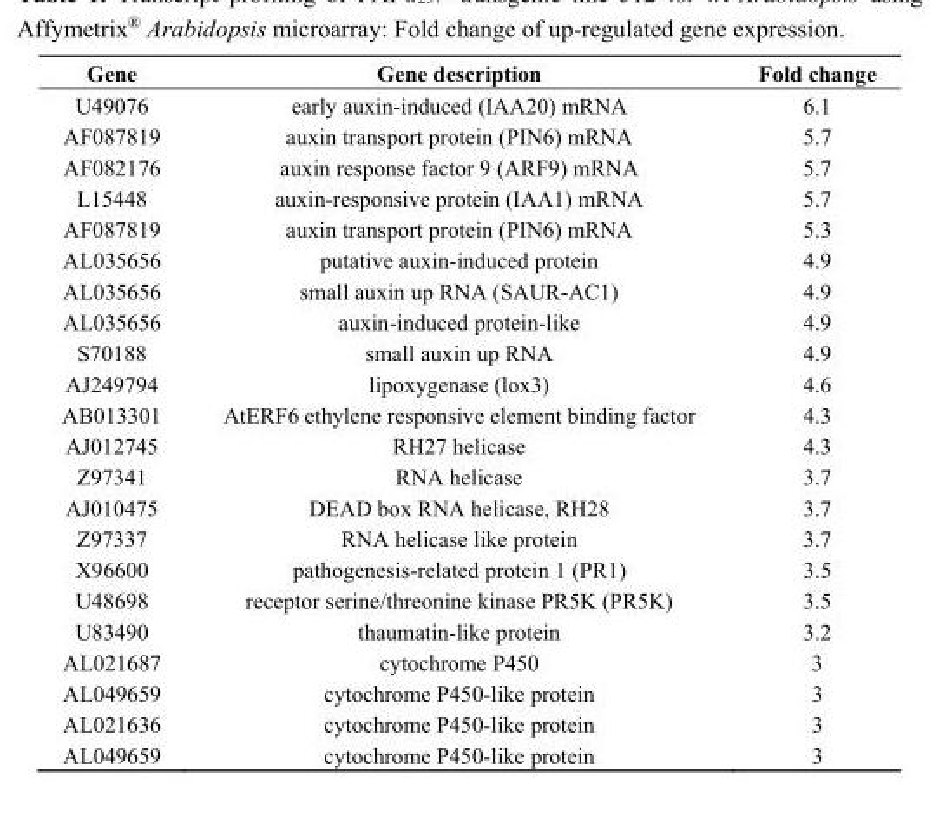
<table><thead><tr><td>Gene</td><td>Gene description</td><td>Fold change</td></tr></thead><tbody><tr><td>U49076</td><td>early auxin-induced (IAA20) mRNA</td><td>6.1</td></tr><tr><td>AF087819</td><td>auxin transport protein (PIN6) mRNA</td><td>5.7</td></tr><tr><td>AF082176</td><td>auxin response factor 9 (ARF9) mRNA</td><td>5.7</td></tr><tr><td>L15448</td><td>auxin-responsive protein (IAA1) mRNA</td><td>5.7</td></tr><tr><td>AF087819</td><td>auxin transport protein (PIN6) mRNA</td><td>5.3</td></tr><tr><td>AL035656</td><td>putative auxin-induced protein</td><td>4.9</td></tr><tr><td>AL035656</td><td>small auxin up RNA (SAUR-AC1)</td><td>4.9</td></tr><tr><td>AL035656</td><td>auxin-induced protein-like</td><td>4.9</td></tr><tr><td>S70188</td><td>small auxin up RNA</td><td>4.9</td></tr><tr><td>AJ249794</td><td>lipoxygenase (lox3)</td><td>4.6</td></tr><tr><td>AB013301</td><td>AtERF6 ethylene responsive element binding factor</td><td>4.3</td></tr><tr><td>AJ012745</td><td>RH27 helicase</td><td>4.3</td></tr><tr><td>Z97341</td><td>RNA helicase</td><td>3.7</td></tr><tr><td>AJ010475</td><td>DEAD box RNA helicase, RH28</td><td>3.7</td></tr><tr><td>Z97337</td><td>RNA helicase like protein</td><td>3.7</td></tr><tr><td>X96600</td><td>pathogenesis-related protein 1 (PR1)</td><td>3.5</td></tr><tr><td>U48698</td><td>receptor serine/threonine kinase PR5K (PR5K)</td><td>3.5</td></tr><tr><td>U83490</td><td>thaumatin-like protein</td><td>3.2</td></tr><tr><td>AL021687</td><td>cytochrome P450</td><td>3</td></tr><tr><td>AL049659</td><td>cytochrome P450-like protein</td><td>3</td></tr><tr><td>AL021636</td><td>cytochrome P450-like protein</td><td>3</td></tr><tr><td>AL049659</td><td>cytochrome P450-like protein</td><td>3</td></tr></tbody></table>